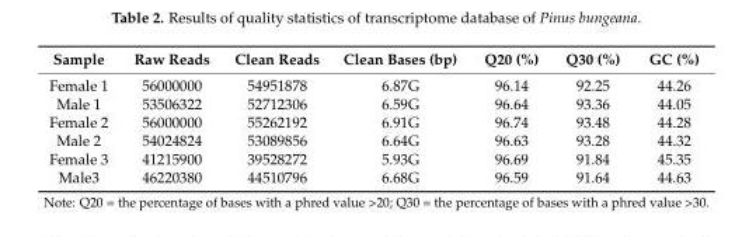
<table><thead><tr><td>Sample</td><td>Raw Reads</td><td>Clean Reads</td><td>Clean Bases (bp)</td><td>Q20 (%)</td><td>Q30 (%)</td><td>GC (%)</td></tr></thead><tbody><tr><td>Female 1</td><td>56000000</td><td>54951878</td><td>6.87G</td><td>96.14</td><td>92.25</td><td>44.26</td></tr><tr><td>Male 1</td><td>53506322</td><td>52712306</td><td>6.59G</td><td>96.64</td><td>93.36</td><td>44.05</td></tr><tr><td>Female 2</td><td>56000000</td><td>55262192</td><td>6.91G</td><td>96.74</td><td>93.48</td><td>44.28</td></tr><tr><td>Male 2</td><td>54024824</td><td>53089856</td><td>6.64G</td><td>96.63</td><td>93.28</td><td>44.32</td></tr><tr><td>Female 3</td><td>41215900</td><td>39528272</td><td>5.93G</td><td>96.69</td><td>91.84</td><td>45.35</td></tr><tr><td>Male3</td><td>46220380</td><td>44510796</td><td>6.68G</td><td>96.59</td><td>91.64</td><td>44.63</td></tr></tbody></table>